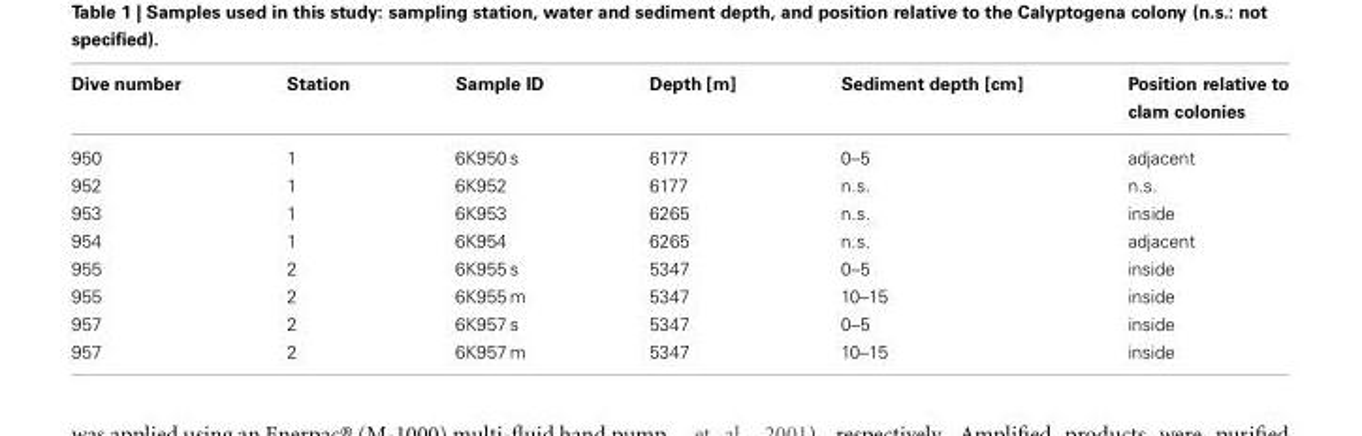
<table><thead><tr><td>Dive number</td><td>Station</td><td>Sample ID</td><td>Depth [m]</td><td>Sediment depth [cm]</td><td>Position relative to clam colonies</td></tr></thead><tbody><tr><td>950</td><td>1</td><td>6K950 s</td><td>6177</td><td>0–5</td><td>adjacent</td></tr><tr><td>952</td><td>1</td><td>6K952</td><td>6177</td><td>n.s.</td><td>n.s.</td></tr><tr><td>953</td><td>1</td><td>6K953</td><td>6265</td><td>n.s.</td><td>inside</td></tr><tr><td>954</td><td>1</td><td>6K954</td><td>6265</td><td>n.s.</td><td>adjacent</td></tr><tr><td>955</td><td>2</td><td>6K955 s</td><td>5347</td><td>0–5</td><td>inside</td></tr><tr><td>955</td><td>2</td><td>6K955 m</td><td>5347</td><td>10–15</td><td>inside</td></tr><tr><td>957</td><td>2</td><td>6K957 s</td><td>5347</td><td>0–5</td><td>inside</td></tr><tr><td>957</td><td>2</td><td>6K957 m</td><td>5347</td><td>10–15</td><td>inside</td></tr></tbody></table>